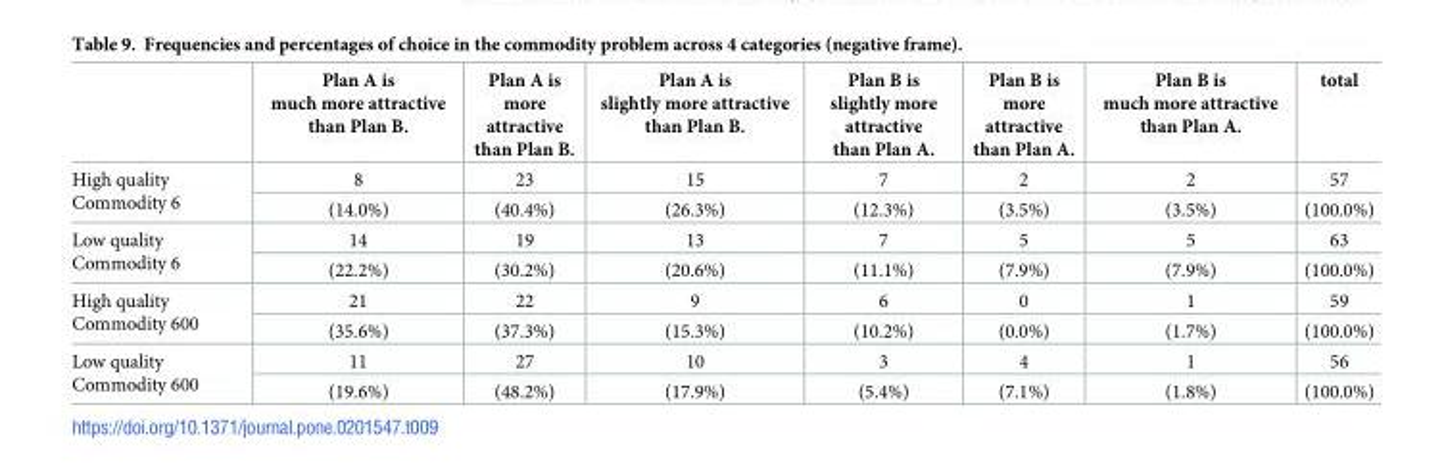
<table><thead><tr><td></td><td>Plan A is much more attractive than Plan B.</td><td>Plan A is more attractive than Plan B.</td><td>Plan A is slightly more attractive than Plan B.</td><td>Plan B is slightly more attractive than Plan A.</td><td>Plan B is more attractive than Plan A.</td><td>Plan B is much more attractive than Plan A.</td><td>total</td></tr></thead><tbody><tr><td rowspan="2">High quality Commodity 6</td><td>8</td><td>23</td><td>15</td><td>7</td><td>2</td><td>2</td><td>57</td></tr><tr><td>(14.0%)</td><td>(40.4%)</td><td>(26.3%)</td><td>(12.3%)</td><td>(3.5%)</td><td>(3.5%)</td><td>(100.0%)</td></tr><tr><td rowspan="2">Low quality Commodity 6</td><td>14</td><td>19</td><td>13</td><td>7</td><td>5</td><td>5</td><td>63</td></tr><tr><td>(22.2%)</td><td>(30.2%)</td><td>(20.6%)</td><td>(11.1%)</td><td>(7.9%)</td><td>(7.9%)</td><td>(100.0%)</td></tr><tr><td rowspan="2">High quality Commodity 600</td><td>21</td><td>22</td><td>9</td><td>6</td><td>0</td><td>1</td><td>59</td></tr><tr><td>(35.6%)</td><td>(37.3%)</td><td>(15.3%)</td><td>(10.2%)</td><td>(0.0%)</td><td>(1.7%)</td><td>(100.0%)</td></tr><tr><td rowspan="2">Low quality Commodity 600</td><td>11</td><td>27</td><td>10</td><td>3</td><td>4</td><td>1</td><td>56</td></tr><tr><td>(19.6%)</td><td>(48.2%)</td><td>(17.9%)</td><td>(5.4%)</td><td>(7.1%)</td><td>(1.8%)</td><td>(100.0%)</td></tr></tbody></table>